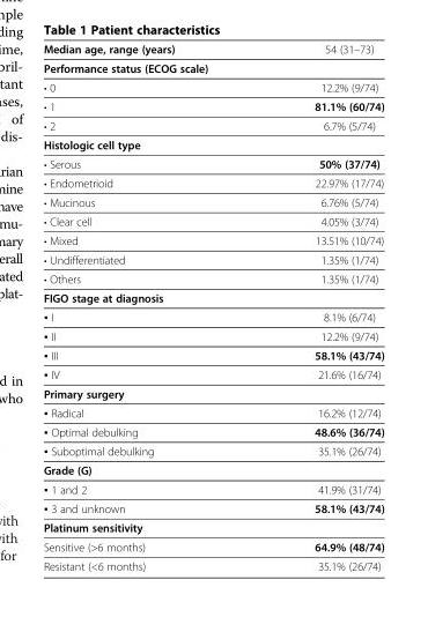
<table><thead><tr><td>Median age, range (years)</td><td>54 (31–73)</td></tr></thead><tbody><tr><td colspan="2">Performance status (ECOG scale)</td></tr><tr><td>• 0</td><td>12.2% (9/74)</td></tr><tr><td>• 1</td><td>81.1% (60/74)</td></tr><tr><td>• 2</td><td>6.7% (5/74)</td></tr><tr><td colspan="2">Histologic cell type</td></tr><tr><td>• Serous</td><td>50% (37/74)</td></tr><tr><td>• Endometrioid</td><td>22.97% (17/74)</td></tr><tr><td>• Mucinous</td><td>6.76% (5/74)</td></tr><tr><td>• Clear cell</td><td>4.05% (3/74)</td></tr><tr><td>• Mixed</td><td>13.51% (10/74)</td></tr><tr><td>• Undifferentiated</td><td>1.35% (1/74)</td></tr><tr><td>• Others</td><td>1.35% (1/74)</td></tr><tr><td colspan="2">FIGO stage at diagnosis</td></tr><tr><td>▪ I</td><td>8.1% (6/74)</td></tr><tr><td>▪ II</td><td>12.2% (9/74)</td></tr><tr><td>▪ III</td><td>58.1% (43/74)</td></tr><tr><td>▪ IV</td><td>21.6% (16/74)</td></tr><tr><td colspan="2">Primary surgery</td></tr><tr><td>▪ Radical</td><td>16.2% (12/74)</td></tr><tr><td>▪ Optimal debulking</td><td>48.6% (36/74)</td></tr><tr><td>▪ Suboptimal debulking</td><td>35.1% (26/74)</td></tr><tr><td colspan="2">Grade (G)</td></tr><tr><td>▪ 1 and 2</td><td>41.9% (31/74)</td></tr><tr><td>▪ 3 and unknown</td><td>58.1% (43/74)</td></tr><tr><td colspan="2">Platinum sensitivity</td></tr><tr><td>Sensitive (&gt;6 months)</td><td>64.9% (48/74)</td></tr><tr><td>Resistant (&lt;6 months)</td><td>35.1% (26/74)</td></tr></tbody></table>